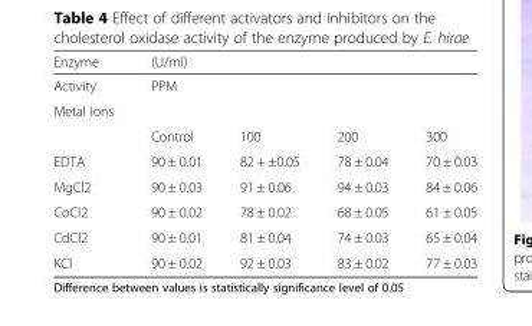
<table><thead><tr><td rowspan="4">Enzyme Activity Metal Ions</td><td rowspan="3" colspan="4">(U/ml) PPM</td></tr><tr></tr><tr></tr><tr><td>Control</td><td>100</td><td>200</td><td>300</td></tr></thead><tbody><tr><td>EDTA</td><td>90 ± 0.01</td><td>82 + ±0.05</td><td>78 ± 0.04</td><td>70 ± 0.03</td></tr><tr><td>MgCl2</td><td>90 ± 0.03</td><td>91 ± 0.06</td><td>94 ± 0.03</td><td>84 ± 0.06</td></tr><tr><td>CoCl2</td><td>90 ± 0.02</td><td>78 ± 0.02</td><td>68 ± 0.05</td><td>61 ± 0.05</td></tr><tr><td>CdCl2</td><td>90 ± 0.01</td><td>81 ± 0.04</td><td>74 ± 0.03</td><td>65 ± 0.04</td></tr><tr><td>KCl</td><td>90 ± 0.02</td><td>92 ± 0.03</td><td>83 ± 0.02</td><td>77 ± 0.03</td></tr></tbody></table>